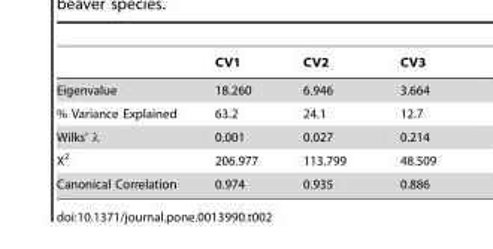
<table><thead><tr><td></td><td>CV1</td><td>CV2</td><td>CV3</td></tr></thead><tbody><tr><td>Eigenvalue</td><td>18.260</td><td>6.946</td><td>3.664</td></tr><tr><td>% Variance Explained</td><td>63.2</td><td>24.1</td><td>12.7</td></tr><tr><td>Wilks’ λ</td><td>0.001</td><td>0.027</td><td>0.214</td></tr><tr><td>X<sup>2</sup></td><td>206.977</td><td>113.799</td><td>48.509</td></tr><tr><td>Canonical Correlation</td><td>0.974</td><td>0.935</td><td>0.886</td></tr></tbody></table>